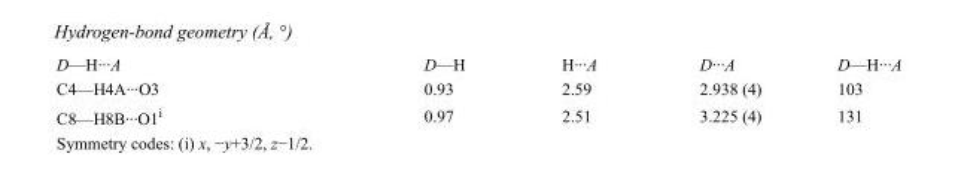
<table><tbody><tr><td>D—H···A</td><td>D—H</td><td>H···A</td><td>D···A</td><td>D—H···A</td></tr><tr><td>C4—H4A···O3</td><td>0.93</td><td>2.59</td><td>2.938 (4)</td><td>103</td></tr><tr><td>C8—H8B···O1<sup>i</sup></td><td>0.97</td><td>2.51</td><td>3.225 (4)</td><td>131</td></tr></tbody></table>